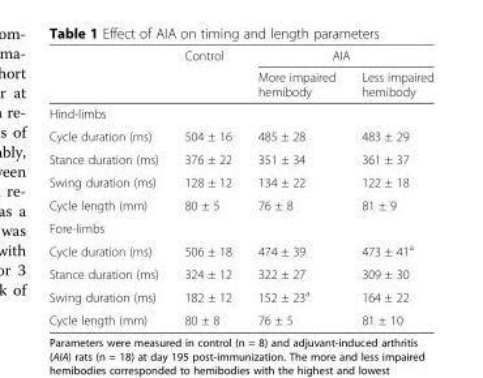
<table><thead><tr><td rowspan="2"></td><td rowspan="2">Control</td><td colspan="2">AIA</td></tr><tr><td>More impaired hemibody</td><td>Less impaired hemibody</td></tr></thead><tbody><tr><td colspan="4">Hind-limbs</td></tr><tr><td>Cycle duration (ms)</td><td>504 ± 16</td><td>485 ± 28</td><td>483 ± 29</td></tr><tr><td>Stance duration (ms)</td><td>376 ± 22</td><td>351 ± 34</td><td>361 ± 37</td></tr><tr><td>Swing duration (ms)</td><td>128 ± 12</td><td>134 ± 22</td><td>122 ± 18</td></tr><tr><td>Cycle length (mm)</td><td>80 ± 5</td><td>76 ± 8</td><td>81 ± 9</td></tr><tr><td colspan="4">Fore-limbs</td></tr><tr><td>Cycle duration (ms)</td><td>506 ± 18</td><td>474 ± 39</td><td>473 ± 41<sup>a</sup></td></tr><tr><td>Stance duration (ms)</td><td>324 ± 12</td><td>322 ± 27</td><td>309 ± 30</td></tr><tr><td>Swing duration (ms)</td><td>182 ± 12</td><td>152 ± 23<sup>a</sup></td><td>164 ± 22</td></tr><tr><td>Cycle length (mm)</td><td>80 ± 8</td><td>76 ± 5</td><td>81 ± 10</td></tr></tbody></table>